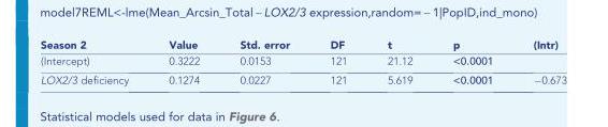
<table><thead><tr><td>Season 2</td><td>Value</td><td>Std. error</td><td>DF</td><td>t</td><td>p</td><td>(Intr)</td></tr></thead><tbody><tr><td>(Intercept)</td><td>0.3222</td><td>0.0153</td><td>121</td><td>21.12</td><td>&lt;0.0001</td><td></td></tr><tr><td>LOX2/3 deficiency</td><td>0.1274</td><td>0.0227</td><td>121</td><td>5.619</td><td>&lt;0.0001</td><td>−0.673</td></tr></tbody></table>